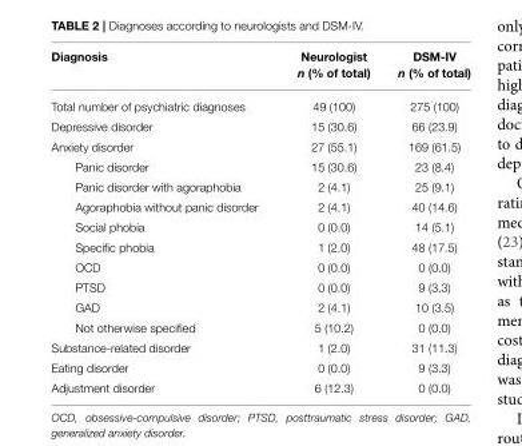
<table><thead><tr><td>Diagnosis</td><td>Neurologist n (% of total)</td><td>DSM-IV n (% of total)</td></tr></thead><tbody><tr><td>Total number of psychiatric diagnoses</td><td>49 (100)</td><td>275 (100)</td></tr><tr><td>Depressive disorder</td><td>15 (30.6)</td><td>66 (23.9)</td></tr><tr><td>Anxiety disorder</td><td>27 (55.1)</td><td>169 (61.5)</td></tr><tr><td>Panic disorder</td><td>15 (30.6)</td><td>23 (8.4)</td></tr><tr><td>Panic disorder with agoraphobia</td><td>2 (4.1)</td><td>25 (9.1)</td></tr><tr><td>Agoraphobia without panic disorder</td><td>2 (4.1)</td><td>40 (14.6)</td></tr><tr><td>Social phobia</td><td>0 (0.0)</td><td>14 (5.1)</td></tr><tr><td>Specific phobia</td><td>1 (2.0)</td><td>48 (17.5)</td></tr><tr><td>OCD</td><td>0 (0.0)</td><td>0 (0.0)</td></tr><tr><td>PTSD</td><td>0 (0.0)</td><td>9 (3.3)</td></tr><tr><td>GAD</td><td>2 (4.1)</td><td>10 (3.5)</td></tr><tr><td>Not otherwise specified</td><td>5 (10.2)</td><td>0 (0.0)</td></tr><tr><td>Substance-related disorder</td><td>1 (2.0)</td><td>31 (11.3)</td></tr><tr><td>Eating disorder</td><td>0 (0.0)</td><td>9 (3.3)</td></tr><tr><td>Adjustment disorder</td><td>6 (12.3)</td><td>0 (0.0)</td></tr></tbody></table>